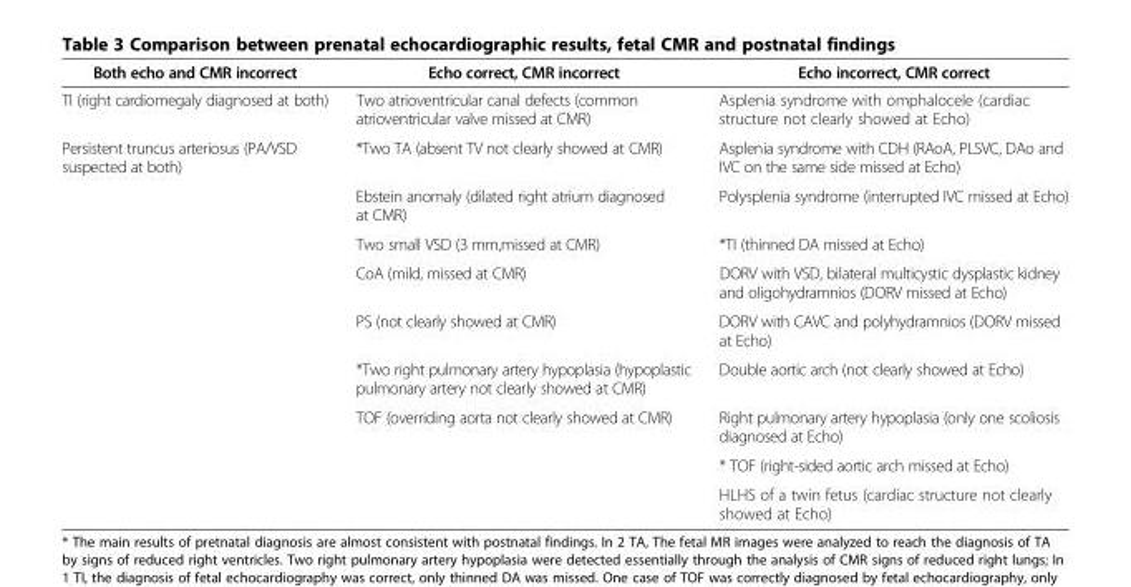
<table><thead><tr><td>Both echo and CMR incorrect</td><td>Echo correct, CMR incorrect</td><td>Echo incorrect, CMR correct</td></tr></thead><tbody><tr><td>TI (right cardiomegaly diagnosed at both)</td><td>Two atrioventricular canal defects (common atrioventricular valve missed at CMR)</td><td>Asplenia syndrome with omphalocele (cardiac structure not clearly showed at Echo)</td></tr><tr><td rowspan="9">Persistent truncus arteriosus (PA/VSD suspected at both)</td><td>*Two TA (absent TV not clearly showed at CMR)</td><td>Asplenia syndrome with CDH (RAoA, PLSVC, DAo and IVC on the same side missed at Echo)</td></tr><tr><td>Ebstein anomaly (dilated right atrium diagnosed at CMR)</td><td>Polysplenia syndrome (interrupted IVC missed at Echo)</td></tr><tr><td>Two small VSD (3 mm,missed at CMR)</td><td>*TI (thinned DA missed at Echo)</td></tr><tr><td>CoA (mild, missed at CMR)</td><td>DORV with VSD, bilateral multicystic dysplastic kidney and oligohydramnios (DORV missed at Echo)</td></tr><tr><td>PS (not clearly showed at CMR)</td><td>DORV with CAVC and polyhydramnios (DORV missed at Echo)</td></tr><tr><td>*Two right pulmonary artery hypoplasia (hypoplastic pulmonary artery not clearly showed at CMR)</td><td>Double aortic arch (not clearly showed at Echo)</td></tr><tr><td rowspan="2">TOF (overriding aorta not clearly showed at CMR)</td><td>Right pulmonary artery hypoplasia (only one scoliosis diagnosed at Echo)</td></tr><tr><td>* TOF (right-sided aortic arch missed at Echo)</td></tr><tr><td></td><td>HLHS of a twin fetus (cardiac structure not clearly showed at Echo)</td></tr></tbody></table>